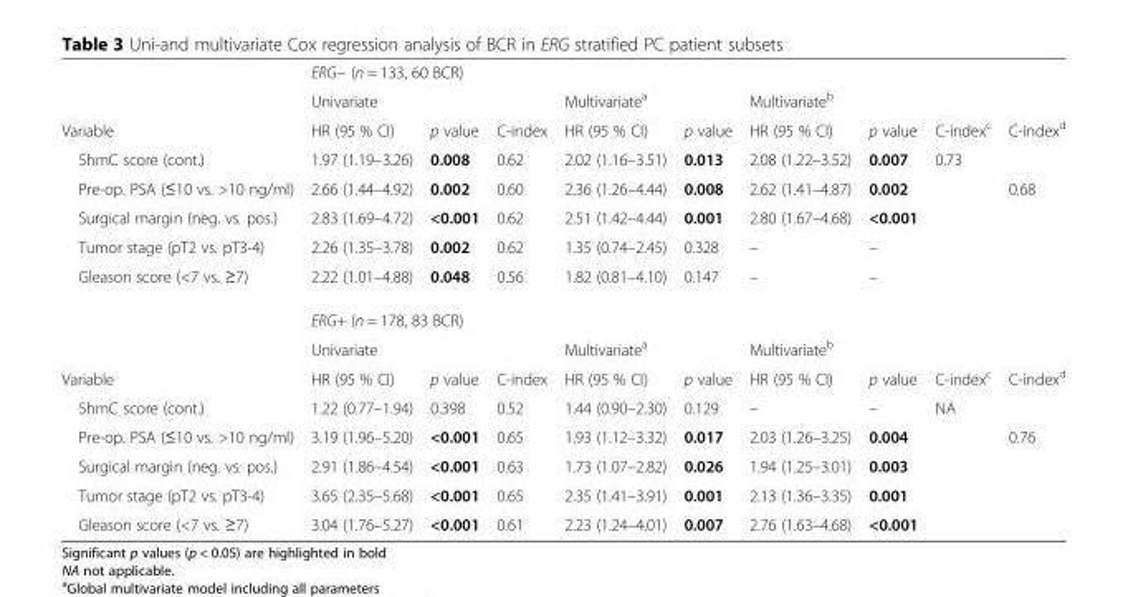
<table><thead><tr><td rowspan="3">Variable</td><td colspan="9">ERG− (n = 133, 60 BCR)</td></tr><tr><td colspan="3">Univariate</td><td colspan="2">Multivariate<sup>a</sup></td><td colspan="4">Multivariate<sup>b</sup></td></tr><tr><td>HR (95 % CI)</td><td>p value</td><td>C-index</td><td>HR (95 % CI)</td><td>p value</td><td>HR (95 % CI)</td><td>p value</td><td>C-index<sup>c</sup></td><td>C-index<sup>d</sup></td></tr></thead><tbody><tr><td>5hmC score (cont.)</td><td>1.97 (1.19–3.26)</td><td>0.008</td><td>0.62</td><td>2.02 (1.16–3.51)</td><td>0.013</td><td>2.08 (1.22–3.52)</td><td>0.007</td><td>0.73</td><td></td></tr><tr><td>Pre-op. PSA (≤10 vs. &gt;10 ng/ml)</td><td>2.66 (1.44–4.92)</td><td>0.002</td><td>0.60</td><td>2.36 (1.26–4.44)</td><td>0.008</td><td>2.62 (1.41–4.87)</td><td>0.002</td><td></td><td>0.68</td></tr><tr><td>Surgical margin (neg. vs. pos.)</td><td>2.83 (1.69–4.72)</td><td>&lt;0.001</td><td>0.62</td><td>2.51 (1.42–4.44)</td><td>0.001</td><td>2.80 (1.67–4.68)</td><td>&lt;0.001</td><td></td><td></td></tr><tr><td>Tumor stage (pT2 vs. pT3-4)</td><td>2.26 (1.35–3.78)</td><td>0.002</td><td>0.62</td><td>1.35 (0.74–2.45)</td><td>0.328</td><td>–</td><td>–</td><td></td><td></td></tr><tr><td rowspan="3">Gleason score (&lt;7 vs. ≥7)</td><td>2.22 (1.01–4.88)</td><td>0.048</td><td>0.56</td><td>1.82 (0.81–4.10)</td><td>0.147</td><td>–</td><td>–</td><td></td><td></td></tr><tr><td colspan="9">ERG+ (n = 178, 83 BCR)</td></tr><tr><td colspan="3">Univariate</td><td colspan="2">Multivariate<sup>a</sup></td><td colspan="4">Multivariate<sup>b</sup></td></tr><tr><td>Variable</td><td>HR (95 % CI)</td><td>p value</td><td>C-index</td><td>HR (95 % CI)</td><td>p value</td><td>HR (95 % CI)</td><td>p value</td><td>C-index<sup>c</sup></td><td>C-index<sup>d</sup></td></tr><tr><td>5hmC score (cont.)</td><td>1.22 (0.77–1.94)</td><td>0.398</td><td>0.52</td><td>1.44 (0.90–2.30)</td><td>0.129</td><td>–</td><td>–</td><td>NA</td><td></td></tr><tr><td>Pre-op. PSA (≤10 vs. &gt;10 ng/ml)</td><td>3.19 (1.96–5.20)</td><td>&lt;0.001</td><td>0.65</td><td>1.93 (1.12–3.32)</td><td>0.017</td><td>2.03 (1.26–3.25)</td><td>0.004</td><td></td><td>0.76</td></tr><tr><td>Surgical margin (neg. vs. pos.)</td><td>2.91 (1.86–4.54)</td><td>&lt;0.001</td><td>0.63</td><td>1.73 (1.07–2.82)</td><td>0.026</td><td>1.94 (1.25–3.01)</td><td>0.003</td><td></td><td></td></tr><tr><td>Tumor stage (pT2 vs. pT3-4)</td><td>3.65 (2.35–5.68)</td><td>&lt;0.001</td><td>0.65</td><td>2.35 (1.41–3.91)</td><td>0.001</td><td>2.13 (1.36–3.35)</td><td>0.001</td><td></td><td></td></tr><tr><td>Gleason score (&lt;7 vs. ≥7)</td><td>3.04 (1.76–5.27)</td><td>&lt;0.001</td><td>0.61</td><td>2.23 (1.24–4.01)</td><td>0.007</td><td>2.76 (1.63–4.68)</td><td>&lt;0.001</td><td></td><td></td></tr></tbody></table>